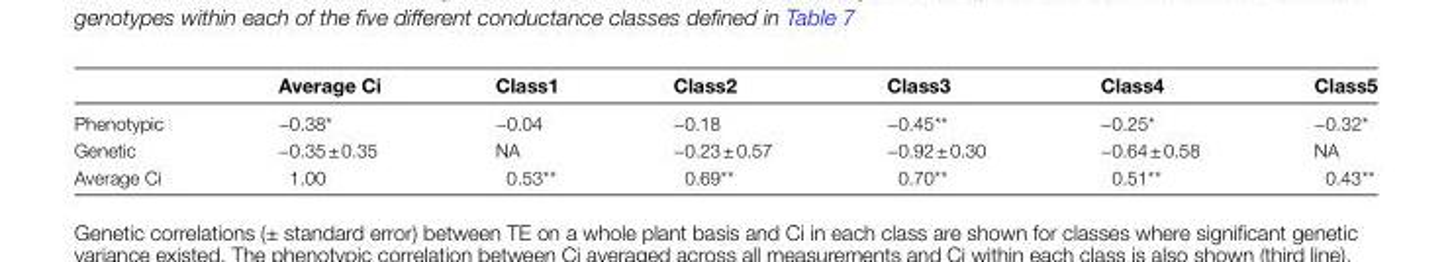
<table><thead><tr><td></td><td>Average Ci</td><td>Class1</td><td>Class2</td><td>Class3</td><td>Class4</td><td>Class5</td></tr></thead><tbody><tr><td>Phenotypic</td><td>−0.38*</td><td>−0.04</td><td>−0.18</td><td>−0.45**</td><td>−0.25*</td><td>−0.32*</td></tr><tr><td>Genetic</td><td>−0.35 ± 0.35</td><td>NA</td><td>−0.23 ± 0.57</td><td>−0.92 ± 0.30</td><td>−0.64 ± 0.58</td><td>NA</td></tr><tr><td>Average Ci</td><td>1.00</td><td>0.53**</td><td>0.69**</td><td>0.70**</td><td>0.51**</td><td>0.43**</td></tr></tbody></table>